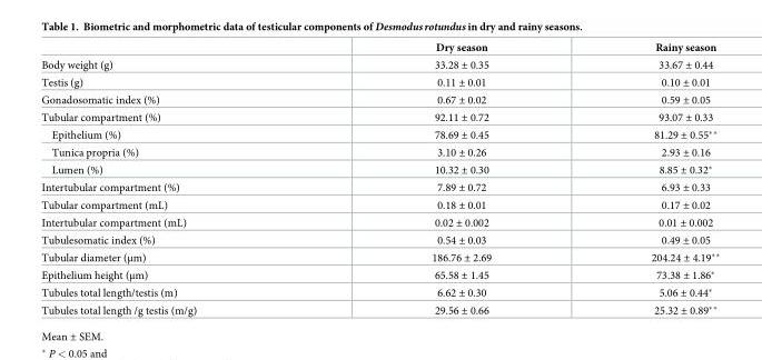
<table><thead><tr><td></td><td>Dry season</td><td>Rainy season</td></tr></thead><tbody><tr><td>Body weight (g)</td><td>33.28 ± 0.35</td><td>33.67 ± 0.44</td></tr><tr><td>Testis (g)</td><td>0.11 ± 0.01</td><td>0.10 ± 0.01</td></tr><tr><td>Gonadosomatic index (%)</td><td>0.67 ± 0.02</td><td>0.59 ± 0.05</td></tr><tr><td>Tubular compartment (%)</td><td>92.11 ± 0.72</td><td>93.07 ± 0.33</td></tr><tr><td>Epithelium (%)</td><td>78.69 ± 0.45</td><td>81.29 ± 0.55**</td></tr><tr><td>Tunica propria (%)</td><td>3.10 ± 0.26</td><td>2.93 ± 0.16</td></tr><tr><td>Lumen (%)</td><td>10.32 ± 0.30</td><td>8.85 ± 0.32*</td></tr><tr><td>Intertubular compartment (%)</td><td>7.89 ± 0.72</td><td>6.93 ± 0.33</td></tr><tr><td>Tubular compartment (mL)</td><td>0.18 ± 0.01</td><td>0.17 ± 0.02</td></tr><tr><td>Intertubular compartment (mL)</td><td>0.02 ± 0.002</td><td>0.01 ± 0.002</td></tr><tr><td>Tubulesomatic index (%)</td><td>0.54 ± 0.03</td><td>0.49 ± 0.05</td></tr><tr><td>Tubular diameter (μm)</td><td>186.76 ± 2.69</td><td>204.24 ± 4.19**</td></tr><tr><td>Epithelium height (μm)</td><td>65.58 ± 1.45</td><td>73.38 ± 1.86*</td></tr><tr><td>Tubules total length/testis (m)</td><td>6.62 ± 0.30</td><td>5.06 ± 0.44*</td></tr><tr><td>Tubules total length /g testis (m/g)</td><td>29.56 ± 0.66</td><td>25.32 ± 0.89**</td></tr></tbody></table>